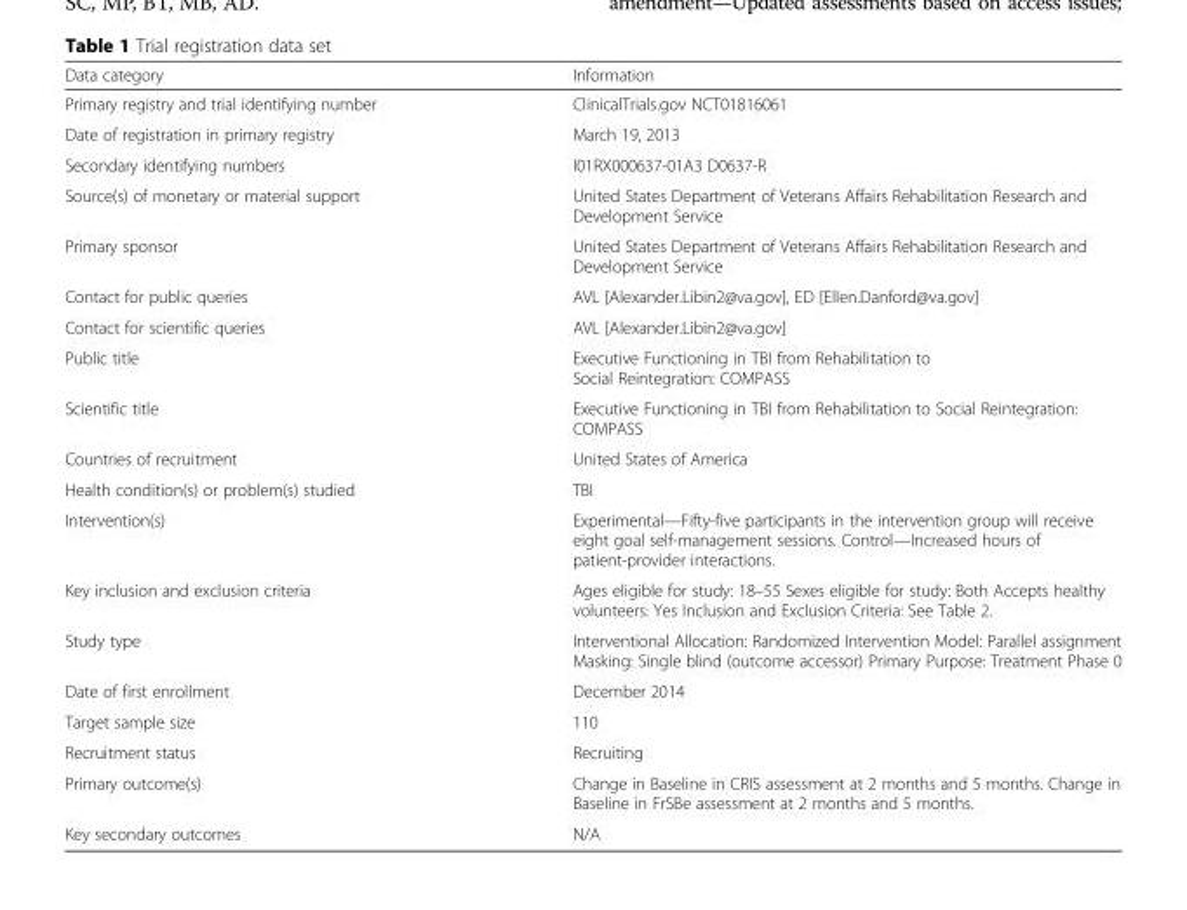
<table><thead><tr><td>Data category</td><td>Information</td></tr></thead><tbody><tr><td>Primary registry and trial identifying number</td><td>ClinicalTrials.gov NCT01816061</td></tr><tr><td>Date of registration in primary registry</td><td>March 19, 2013</td></tr><tr><td>Secondary identifying numbers</td><td>I01RX000637-01A3 D0637-R</td></tr><tr><td>Source(s) of monetary or material support</td><td>United States Department of Veterans Affairs Rehabilitation Research and Development Service</td></tr><tr><td>Primary sponsor</td><td>United States Department of Veterans Affairs Rehabilitation Research and Development Service</td></tr><tr><td>Contact for public queries</td><td>AVL [Alexander.Libin2@va.gov], ED [Ellen.Danford@va.gov]</td></tr><tr><td>Contact for scientific queries</td><td>AVL [Alexander.Libin2@va.gov]</td></tr><tr><td>Public title</td><td>Executive Functioning in TBI from Rehabilitation to Social Reintegration: COMPASS</td></tr><tr><td>Scientific title</td><td>Executive Functioning in TBI from Rehabilitation to Social Reintegration: COMPASS</td></tr><tr><td>Countries of recruitment</td><td>United States of America</td></tr><tr><td>Health condition(s) or problem(s) studied</td><td>TBI</td></tr><tr><td>Intervention(s)</td><td>Experimental—Fifty-five participants in the intervention group will receive eight goal self-management sessions. Control—Increased hours of patient-provider interactions.</td></tr><tr><td>Key inclusion and exclusion criteria</td><td>Ages eligible for study: 18–55 Sexes eligible for study: Both Accepts healthy volunteers: Yes Inclusion and Exclusion Criteria: See Table 2.</td></tr><tr><td>Study type</td><td>Interventional Allocation: Randomized Intervention Model: Parallel assignment Masking: Single blind (outcome accessor) Primary Purpose: Treatment Phase 0</td></tr><tr><td>Date of first enrollment</td><td>December 2014</td></tr><tr><td>Target sample size</td><td>110</td></tr><tr><td>Recruitment status</td><td>Recruiting</td></tr><tr><td>Primary outcome(s)</td><td>Change in Baseline in CRIS assessment at 2 months and 5 months. Change in Baseline in FrSBe assessment at 2 months and 5 months.</td></tr><tr><td>Key secondary outcomes</td><td>N/A</td></tr></tbody></table>